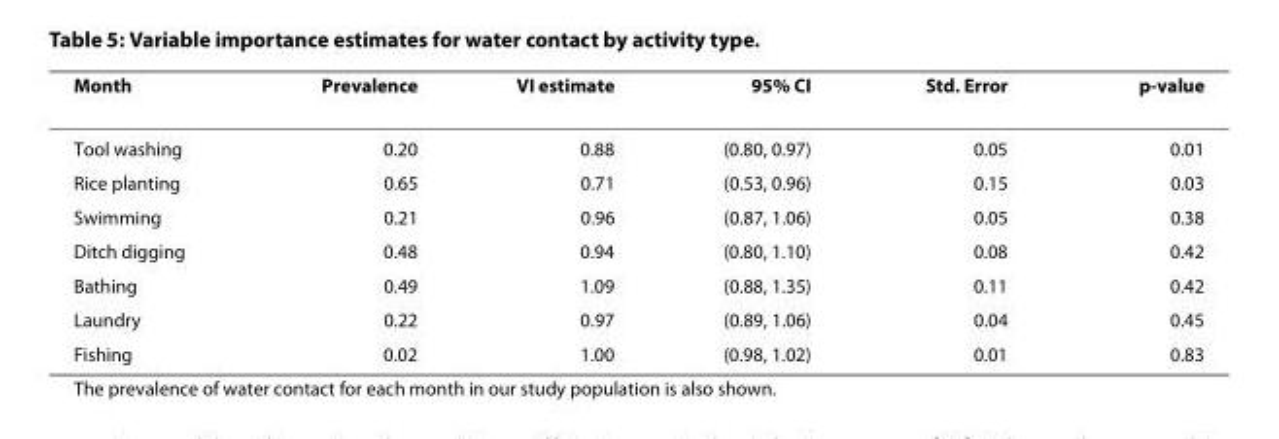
<table><thead><tr><td>Month</td><td>Prevalence</td><td>VI estimate</td><td>95% CI</td><td>Std. Error</td><td>p-value</td></tr></thead><tbody><tr><td>Tool washing</td><td>0.20</td><td>0.88</td><td>(0.80, 0.97)</td><td>0.05</td><td>0.01</td></tr><tr><td>Rice planting</td><td>0.65</td><td>0.71</td><td>(0.53, 0.96)</td><td>0.15</td><td>0.03</td></tr><tr><td>Swimming</td><td>0.21</td><td>0.96</td><td>(0.87, 1.06)</td><td>0.05</td><td>0.38</td></tr><tr><td>Ditch digging</td><td>0.48</td><td>0.94</td><td>(0.80, 1.10)</td><td>0.08</td><td>0.42</td></tr><tr><td>Bathing</td><td>0.49</td><td>1.09</td><td>(0.88, 1.35)</td><td>0.11</td><td>0.42</td></tr><tr><td>Laundry</td><td>0.22</td><td>0.97</td><td>(0.89, 1.06)</td><td>0.04</td><td>0.45</td></tr><tr><td>Fishing</td><td>0.02</td><td>1.00</td><td>(0.98, 1.02)</td><td>0.01</td><td>0.83</td></tr></tbody></table>